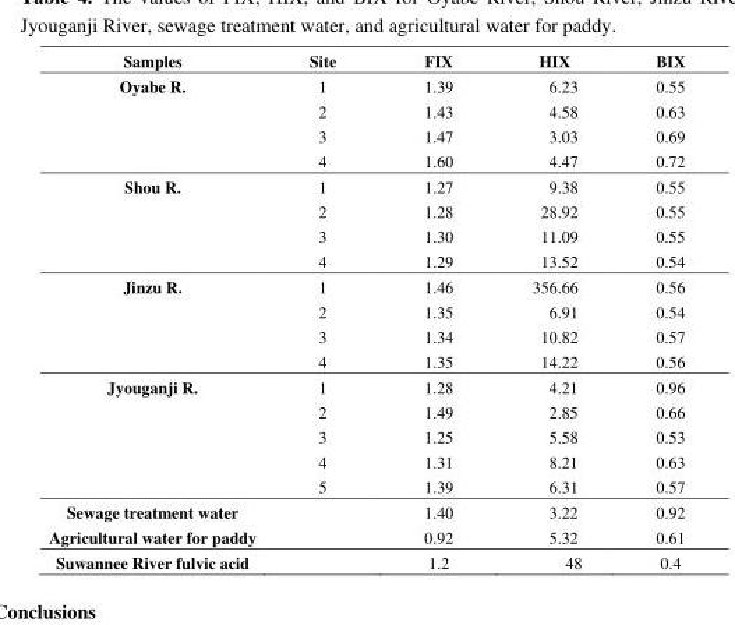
<table><thead><tr><td>Samples</td><td>Site</td><td>FIX</td><td>HIX</td><td>BIX</td></tr></thead><tbody><tr><td rowspan="4">Oyabe R.</td><td>1</td><td>1.39</td><td>6.23</td><td>0.55</td></tr><tr><td>2</td><td>1.43</td><td>4.58</td><td>0.63</td></tr><tr><td>3</td><td>1.47</td><td>3.03</td><td>0.69</td></tr><tr><td>4</td><td>1.60</td><td>4.47</td><td>0.72</td></tr><tr><td rowspan="4">Shou R.</td><td>1</td><td>1.27</td><td>9.38</td><td>0.55</td></tr><tr><td>2</td><td>1.28</td><td>28.92</td><td>0.55</td></tr><tr><td>3</td><td>1.30</td><td>11.09</td><td>0.55</td></tr><tr><td>4</td><td>1.29</td><td>13.52</td><td>0.54</td></tr><tr><td rowspan="4">Jinzu R.</td><td>1</td><td>1.46</td><td>356.66</td><td>0.56</td></tr><tr><td>2</td><td>1.35</td><td>6.91</td><td>0.54</td></tr><tr><td>3</td><td>1.34</td><td>10.82</td><td>0.57</td></tr><tr><td>4</td><td>1.35</td><td>14.22</td><td>0.56</td></tr><tr><td rowspan="5">Jyouganji R.</td><td>1</td><td>1.28</td><td>4.21</td><td>0.96</td></tr><tr><td>2</td><td>1.49</td><td>2.85</td><td>0.66</td></tr><tr><td>3</td><td>1.25</td><td>5.58</td><td>0.53</td></tr><tr><td>4</td><td>1.31</td><td>8.21</td><td>0.63</td></tr><tr><td>5</td><td>1.39</td><td>6.31</td><td>0.57</td></tr><tr><td>Sewage treatment water</td><td></td><td>1.40</td><td>3.22</td><td>0.92</td></tr><tr><td>Agricultural water for paddy</td><td></td><td>0.92</td><td>5.32</td><td>0.61</td></tr><tr><td>Suwannee River fulvic acid</td><td></td><td>1.2</td><td>48</td><td>0.4</td></tr></tbody></table>